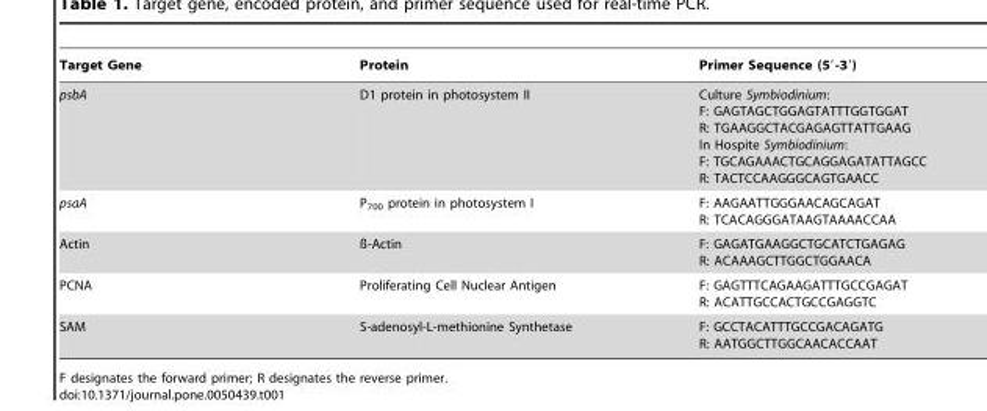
<table><thead><tr><td>Target Gene</td><td>Protein</td><td>Primer Sequence (5′-3′)</td></tr></thead><tbody><tr><td>psbA</td><td>D1 protein in photosystem II</td><td>Culture Symbiodinium: F: GAGTAGCTGGAGTATTTGGTGGAT R: TGAAGGCTACGAGAGTTATTGAAG In Hospite Symbiodinium: F: TGCAGAAACTGCAGGAGATATTAGCC R: TACTCCAAGGGCAGTGAACC</td></tr><tr><td>psaA</td><td>P<sub>700</sub> protein in photosystem I</td><td>F: AAGAATTGGGAACAGCAGAT R: TCACAGGGATAAGTAAAACCAA</td></tr><tr><td>Actin</td><td>ß-Actin</td><td>F: GAGATGAAGGCTGCATCTGAGAG R: ACAAAGCTTGGCTGGAACA</td></tr><tr><td>PCNA</td><td>Proliferating Cell Nuclear Antigen</td><td>F: GAGTTTCAGAAGATTTGCCGAGAT R: ACATTGCCACTGCCGAGGTC</td></tr><tr><td>SAM</td><td>S-adenosyl-L-methionine Synthetase</td><td>F: GCCTACATTTGCCGACAGATG R: AATGGCTTGGCAACACCAAT</td></tr></tbody></table>